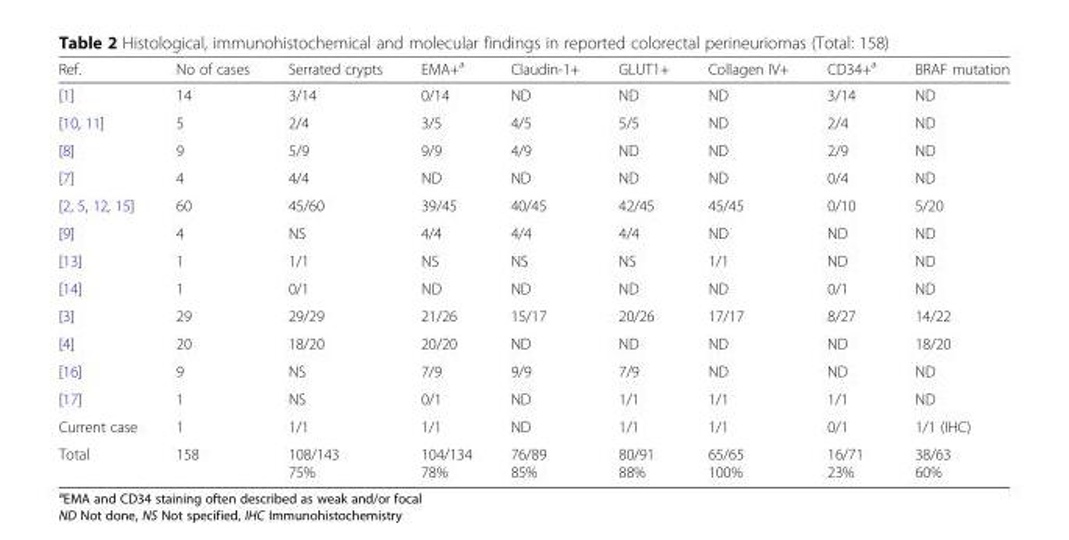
<table><thead><tr><td>Ref.</td><td>No of cases</td><td>Serrated crypts</td><td>EMA+<sup>a</sup></td><td>Claudin-1+</td><td>GLUT1+</td><td>Collagen IV+</td><td>CD34+<sup>a</sup></td><td>BRAF mutation</td></tr></thead><tbody><tr><td>[1]</td><td>14</td><td>3/14</td><td>0/14</td><td>ND</td><td>ND</td><td>ND</td><td>3/14</td><td>ND</td></tr><tr><td>[10, 11]</td><td>5</td><td>2/4</td><td>3/5</td><td>4/5</td><td>5/5</td><td>ND</td><td>2/4</td><td>ND</td></tr><tr><td>[8]</td><td>9</td><td>5/9</td><td>9/9</td><td>4/9</td><td>ND</td><td>ND</td><td>2/9</td><td>ND</td></tr><tr><td>[7]</td><td>4</td><td>4/4</td><td>ND</td><td>ND</td><td>ND</td><td>ND</td><td>0/4</td><td>ND</td></tr><tr><td>[2, 5, 12, 15]</td><td>60</td><td>45/60</td><td>39/45</td><td>40/45</td><td>42/45</td><td>45/45</td><td>0/10</td><td>5/20</td></tr><tr><td>[9]</td><td>4</td><td>NS</td><td>4/4</td><td>4/4</td><td>4/4</td><td>ND</td><td>ND</td><td>ND</td></tr><tr><td>[13]</td><td>1</td><td>1/1</td><td>NS</td><td>NS</td><td>NS</td><td>1/1</td><td>ND</td><td>ND</td></tr><tr><td>[14]</td><td>1</td><td>0/1</td><td>ND</td><td>ND</td><td>ND</td><td>ND</td><td>0/1</td><td>ND</td></tr><tr><td>[3]</td><td>29</td><td>29/29</td><td>21/26</td><td>15/17</td><td>20/26</td><td>17/17</td><td>8/27</td><td>14/22</td></tr><tr><td>[4]</td><td>20</td><td>18/20</td><td>20/20</td><td>ND</td><td>ND</td><td>ND</td><td>ND</td><td>18/20</td></tr><tr><td>[16]</td><td>9</td><td>NS</td><td>7/9</td><td>9/9</td><td>7/9</td><td>ND</td><td>ND</td><td>ND</td></tr><tr><td>[17]</td><td>1</td><td>NS</td><td>0/1</td><td>ND</td><td>1/1</td><td>1/1</td><td>1/1</td><td>ND</td></tr><tr><td>Current case</td><td>1</td><td>1/1</td><td>1/1</td><td>ND</td><td>1/1</td><td>1/1</td><td>0/1</td><td>1/1 (IHC)</td></tr><tr><td>Total</td><td>158</td><td>108/143 75%</td><td>104/134 78%</td><td>76/89 85%</td><td>80/91 88%</td><td>65/65 100%</td><td>16/71 23%</td><td>38/63 60%</td></tr></tbody></table>